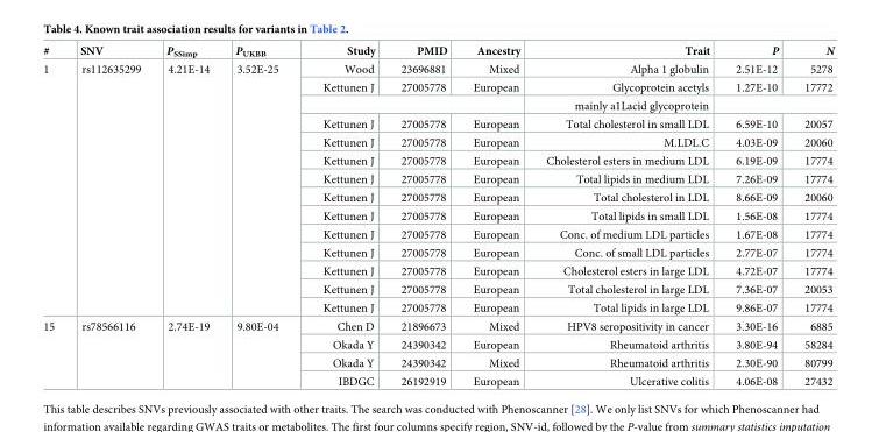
<table><thead><tr><td>#</td><td>SNV</td><td>P<sub>SSimp</sub></td><td>P<sub>UKBB</sub></td><td>Study</td><td>PMID</td><td>Ancestry</td><td>Trait</td><td>P</td><td>N</td></tr></thead><tbody><tr><td rowspan="14">1</td><td rowspan="14">rs112635299</td><td rowspan="14">4.21E-14</td><td rowspan="14">3.52E-25</td><td>Wood</td><td>23696881</td><td>Mixed</td><td>Alpha 1 globulin</td><td>2.51E-12</td><td>5278</td></tr><tr><td>Kettunen J</td><td>27005778</td><td>European</td><td>Glycoprotein acetyls</td><td>1.27E-10</td><td>17772</td></tr><tr><td colspan="3"></td><td>mainly a1Lacid glycoprotein</td><td colspan="2"></td></tr><tr><td>Kettunen J</td><td>27005778</td><td>European</td><td>Total cholesterol in small LDL</td><td>6.59E-10</td><td>20057</td></tr><tr><td>Kettunen J</td><td>27005778</td><td>European</td><td>M.LDL.C</td><td>4.03E-09</td><td>20060</td></tr><tr><td>Kettunen J</td><td>27005778</td><td>European</td><td>Cholesterol esters in medium LDL</td><td>6.19E-09</td><td>17774</td></tr><tr><td>Kettunen J</td><td>27005778</td><td>European</td><td>Total lipids in medium LDL</td><td>7.26E-09</td><td>17774</td></tr><tr><td>Kettunen J</td><td>27005778</td><td>European</td><td>Total cholesterol in LDL</td><td>8.66E-09</td><td>20060</td></tr><tr><td>Kettunen J</td><td>27005778</td><td>European</td><td>Total lipids in small LDL</td><td>1.56E-08</td><td>17774</td></tr><tr><td>Kettunen J</td><td>27005778</td><td>European</td><td>Conc. of medium LDL particles</td><td>1.67E-08</td><td>17774</td></tr><tr><td>Kettunen J</td><td>27005778</td><td>European</td><td>Conc. of small LDL particles</td><td>2.77E-07</td><td>17774</td></tr><tr><td>Kettunen J</td><td>27005778</td><td>European</td><td>Cholesterol esters in large LDL</td><td>4.72E-07</td><td>17774</td></tr><tr><td>Kettunen J</td><td>27005778</td><td>European</td><td>Total cholesterol in large LDL</td><td>7.36E-07</td><td>20053</td></tr><tr><td>Kettunen J</td><td>27005778</td><td>European</td><td>Total lipids in large LDL</td><td>9.86E-07</td><td>17774</td></tr><tr><td rowspan="4">15</td><td rowspan="4">rs78566116</td><td rowspan="4">2.74E-19</td><td rowspan="4">9.80E-04</td><td>Chen D</td><td>21896673</td><td>Mixed</td><td>HPV8 seropositivity in cancer</td><td>3.30E-16</td><td>6885</td></tr><tr><td>Okada Y</td><td>24390342</td><td>European</td><td>Rheumatoid arthritis</td><td>3.80E-94</td><td>58284</td></tr><tr><td>Okada Y</td><td>24390342</td><td>Mixed</td><td>Rheumatoid arthritis</td><td>2.30E-90</td><td>80799</td></tr><tr><td>IBDGC</td><td>26192919</td><td>European</td><td>Ulcerative colitis</td><td>4.06E-08</td><td>27432</td></tr></tbody></table>